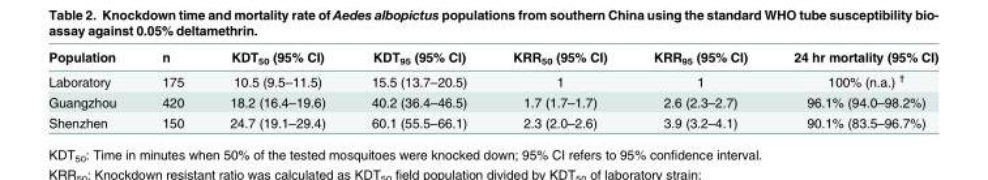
<table><thead><tr><td>Population</td><td>n</td><td>KDT<sub>50</sub> (95% CI)</td><td>KDT<sub>95</sub> (95% CI)</td><td>KRR<sub>50</sub> (95% CI)</td><td>KRR<sub>95</sub> (95% CI)</td><td>24 hr mortality (95% CI)</td></tr></thead><tbody><tr><td>Laboratory</td><td>175</td><td>10.5 (9.5–11.5)</td><td>15.5 (13.7–20.5)</td><td>1</td><td>1</td><td>100% (n.a.) <sup>†</sup></td></tr><tr><td>Guangzhou</td><td>420</td><td>18.2 (16.4–19.6)</td><td>40.2 (36.4–46.5)</td><td>1.7 (1.7–1.7)</td><td>2.6 (2.3–2.7)</td><td>96.1% (94.0–98.2%)</td></tr><tr><td>Shenzhen</td><td>150</td><td>24.7 (19.1–29.4)</td><td>60.1 (55.5–66.1)</td><td>2.3 (2.0–2.6)</td><td>3.9 (3.2–4.1)</td><td>90.1% (83.5–96.7%)</td></tr></tbody></table>